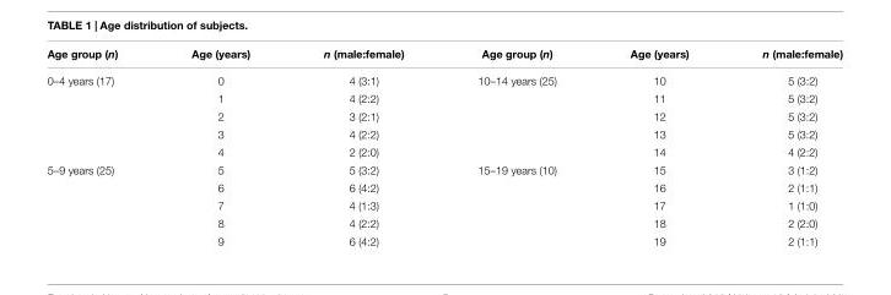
<table><thead><tr><td>Age group (n)</td><td>Age (years)</td><td>n (male:female)</td><td>Age group (n)</td><td>Age (years)</td><td>n (male:female)</td></tr></thead><tbody><tr><td rowspan="5">0–4 years (17)</td><td>0</td><td>4 (3:1)</td><td>10–14 years (25)</td><td>10</td><td>5 (3:2)</td></tr><tr><td>1</td><td>4 (2:2)</td><td></td><td>11</td><td>5 (3:2)</td></tr><tr><td>2</td><td>3 (2:1)</td><td></td><td>12</td><td>5 (3:2)</td></tr><tr><td>3</td><td>4 (2:2)</td><td></td><td>13</td><td>5 (3:2)</td></tr><tr><td>4</td><td>2 (2:0)</td><td></td><td>14</td><td>4 (2:2)</td></tr><tr><td rowspan="5">5–9 years (25)</td><td>5</td><td>5 (3:2)</td><td>15–19 years (10)</td><td>15</td><td>3 (1:2)</td></tr><tr><td>6</td><td>6 (4:2)</td><td></td><td>16</td><td>2 (1:1)</td></tr><tr><td>7</td><td>4 (1:3)</td><td></td><td>17</td><td>1 (1:0)</td></tr><tr><td>8</td><td>4 (2:2)</td><td></td><td>18</td><td>2 (2:0)</td></tr><tr><td>9</td><td>6 (4:2)</td><td></td><td>19</td><td>2 (1:1)</td></tr></tbody></table>